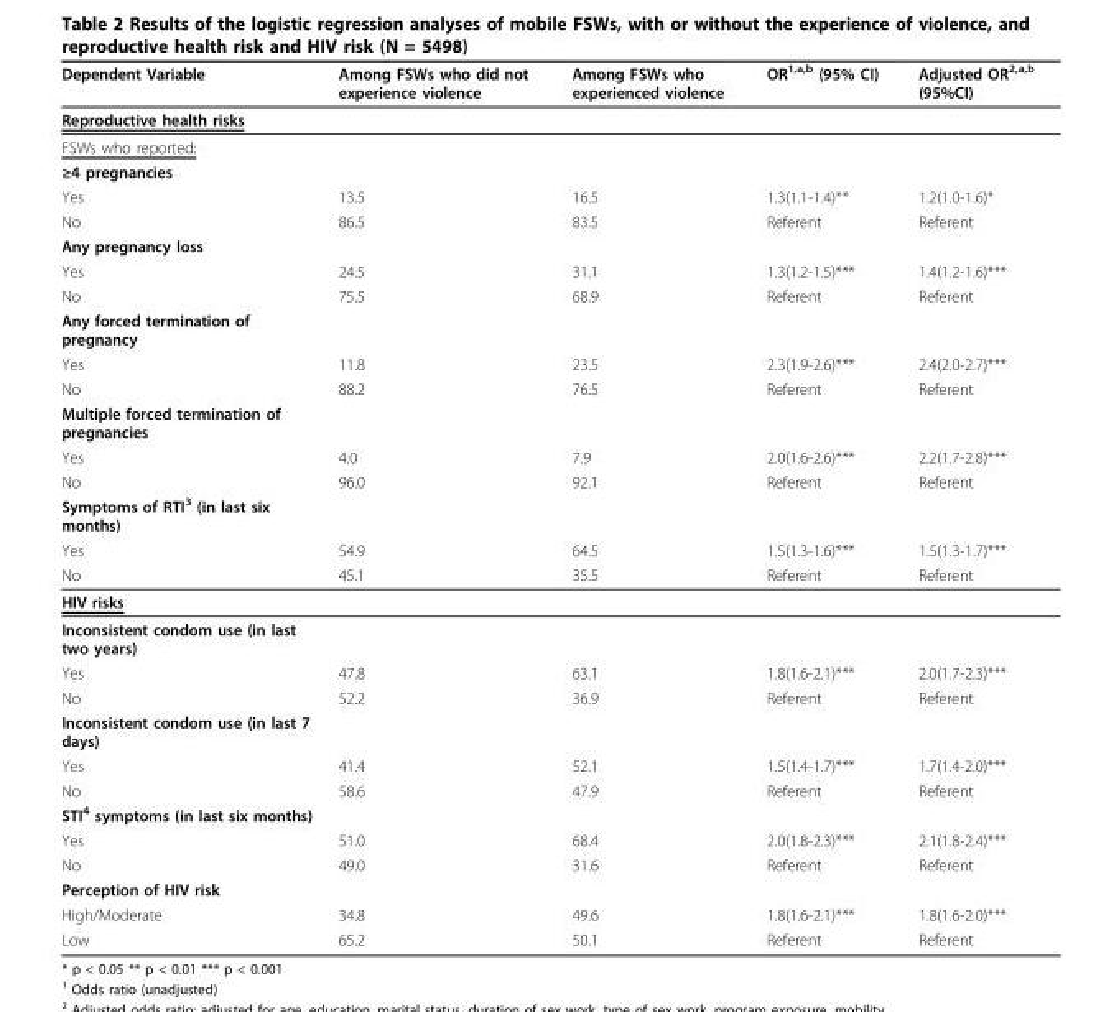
<table><thead><tr><td>Dependent Variable</td><td>Among FSWs who did not experience violence</td><td>Among FSWs who experienced violence</td><td>OR<sup>1,a,b</sup> (95% CI)</td><td>Adjusted OR<sup>2,a,b</sup> (95%CI)</td></tr></thead><tbody><tr><td colspan="5">Reproductive health risks</td></tr><tr><td colspan="5">FSWs who reported:</td></tr><tr><td colspan="5">≥4 pregnancies</td></tr><tr><td>Yes</td><td>13.5</td><td>16.5</td><td>1.3(1.1-1.4)**</td><td>1.2(1.0-1.6)*</td></tr><tr><td>No</td><td>86.5</td><td>83.5</td><td>Referent</td><td>Referent</td></tr><tr><td colspan="5">Any pregnancy loss</td></tr><tr><td>Yes</td><td>24.5</td><td>31.1</td><td>1.3(1.2-1.5)***</td><td>1.4(1.2-1.6)***</td></tr><tr><td>No</td><td>75.5</td><td>68.9</td><td>Referent</td><td>Referent</td></tr><tr><td colspan="5">Any forced termination of pregnancy</td></tr><tr><td>Yes</td><td>11.8</td><td>23.5</td><td>2.3(1.9-2.6)***</td><td>2.4(2.0-2.7)***</td></tr><tr><td>No</td><td>88.2</td><td>76.5</td><td>Referent</td><td>Referent</td></tr><tr><td colspan="5">Multiple forced termination of pregnancies</td></tr><tr><td>Yes</td><td>4.0</td><td>7.9</td><td>2.0(1.6-2.6)***</td><td>2.2(1.7-2.8)***</td></tr><tr><td>No</td><td>96.0</td><td>92.1</td><td>Referent</td><td>Referent</td></tr><tr><td colspan="5">Symptoms of RTI<sup>3</sup> (in last six months)</td></tr><tr><td>Yes</td><td>54.9</td><td>64.5</td><td>1.5(1.3-1.6)***</td><td>1.5(1.3-1.7)***</td></tr><tr><td>No</td><td>45.1</td><td>35.5</td><td>Referent</td><td>Referent</td></tr><tr><td colspan="5">HIV risks</td></tr><tr><td colspan="5">Inconsistent condom use (in last two years)</td></tr><tr><td>Yes</td><td>47.8</td><td>63.1</td><td>1.8(1.6-2.1)***</td><td>2.0(1.7-2.3)***</td></tr><tr><td>No</td><td>52.2</td><td>36.9</td><td>Referent</td><td>Referent</td></tr><tr><td colspan="5">Inconsistent condom use (in last 7 days)</td></tr><tr><td>Yes</td><td>41.4</td><td>52.1</td><td>1.5(1.4-1.7)***</td><td>1.7(1.4-2.0)***</td></tr><tr><td>No</td><td>58.6</td><td>47.9</td><td>Referent</td><td>Referent</td></tr><tr><td colspan="5">STI<sup>4</sup> symptoms (in last six months)</td></tr><tr><td>Yes</td><td>51.0</td><td>68.4</td><td>2.0(1.8-2.3)***</td><td>2.1(1.8-2.4)***</td></tr><tr><td>No</td><td>49.0</td><td>31.6</td><td>Referent</td><td>Referent</td></tr><tr><td colspan="5">Perception of HIV risk</td></tr><tr><td>High/Moderate</td><td>34.8</td><td>49.6</td><td>1.8(1.6-2.1)***</td><td>1.8(1.6-2.0)***</td></tr><tr><td>Low</td><td>65.2</td><td>50.1</td><td>Referent</td><td>Referent</td></tr></tbody></table>